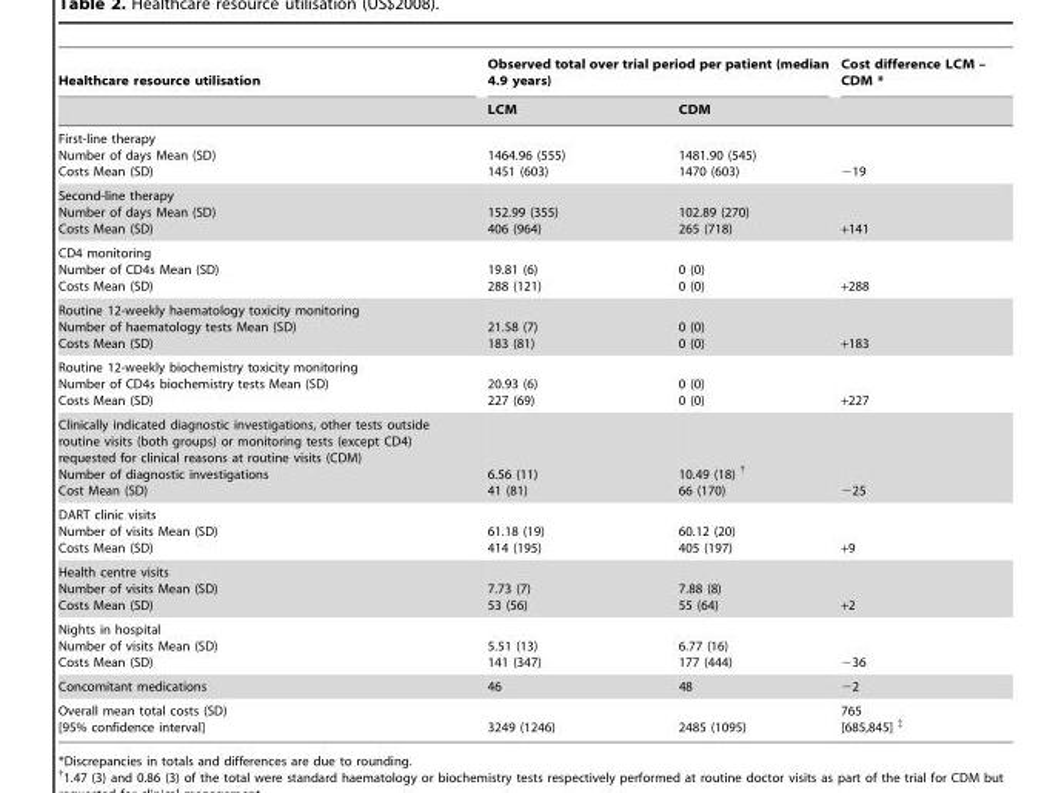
<table><thead><tr><td rowspan="2">Healthcare resource utilisation</td><td colspan="2">Observed total over trial period per patient (median 4.9 years)</td><td rowspan="2">Cost difference LCM – CDM *</td></tr><tr><td>LCM</td><td>CDM</td></tr></thead><tbody><tr><td>First-line therapy Number of days Mean (SD) Costs Mean (SD)</td><td>1464.96 (555) 1451 (603)</td><td>1481.90 (545) 1470 (603)</td><td>−19</td></tr><tr><td>Second-line therapy Number of days Mean (SD) Costs Mean (SD)</td><td>152.99 (355) 406 (964)</td><td>102.89 (270) 265 (718)</td><td>+141</td></tr><tr><td>CD4 monitoring Number of CD4s Mean (SD) Costs Mean (SD)</td><td>19.81 (6) 288 (121)</td><td>0 (0) 0 (0)</td><td>+288</td></tr><tr><td>Routine 12-weekly haematology toxicity monitoring Number of haematology tests Mean (SD) Costs Mean (SD)</td><td>21.58 (7) 183 (81)</td><td>0 (0) 0 (0)</td><td>+183</td></tr><tr><td>Routine 12-weekly biochemistry toxicity monitoring Number of CD4s biochemistry tests Mean (SD) Costs Mean (SD)</td><td>20.93 (6) 227 (69)</td><td>0 (0) 0 (0)</td><td>+227</td></tr><tr><td>Clinically indicated diagnostic investigations, other tests outside routine visits (both groups) or monitoring tests (except CD4) requested for clinical reasons at routine visits (CDM) Number of diagnostic investigations Cost Mean (SD)</td><td>6.56 (11) 41 (81)</td><td>10.49 (18) † 66 (170)</td><td>−25</td></tr><tr><td>DART clinic visits Number of visits Mean (SD) Costs Mean (SD)</td><td>61.18 (19) 414 (195)</td><td>60.12 (20) 405 (197)</td><td>+9</td></tr><tr><td>Health centre visits Number of visits Mean (SD) Costs Mean (SD)</td><td>7.73 (7) 53 (56)</td><td>7.88 (8) 55 (64)</td><td>+2</td></tr><tr><td>Nights in hospital Number of visits Mean (SD) Costs Mean (SD)</td><td>5.51 (13) 141 (347)</td><td>6.77 (16) 177 (444)</td><td>−36</td></tr><tr><td>Concomitant medications</td><td>46</td><td>48</td><td>−2</td></tr><tr><td>Overall mean total costs (SD) [95% confidence interval]</td><td>3249 (1246)</td><td>2485 (1095)</td><td>765 [685,845] ‡</td></tr></tbody></table>